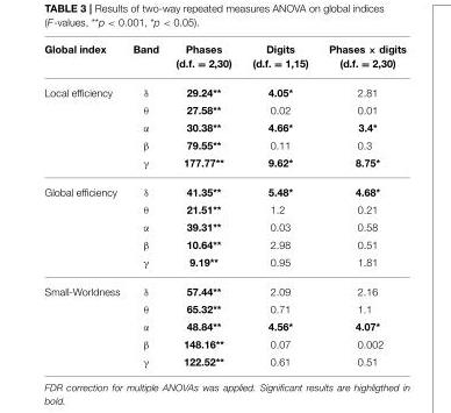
<table><thead><tr><td>Global index</td><td>Band</td><td>Phases (d.f. = 2,30)</td><td>Digits (d.f. = 1,15)</td><td>Phases × digits (d.f. = 2,30)</td></tr></thead><tbody><tr><td rowspan="5">Local efficiency</td><td>δ</td><td>29.24**</td><td>4.05*</td><td>2.81</td></tr><tr><td>θ</td><td>27.58**</td><td>0.02</td><td>0.01</td></tr><tr><td>α</td><td>30.38**</td><td>4.66*</td><td>3.4*</td></tr><tr><td>β</td><td>79.55**</td><td>0.11</td><td>0.3</td></tr><tr><td>γ</td><td>177.77**</td><td>9.62*</td><td>8.75*</td></tr><tr><td rowspan="5">Global efficiency</td><td>δ</td><td>41.35**</td><td>5.48*</td><td>4.68*</td></tr><tr><td>θ</td><td>21.51**</td><td>1.2</td><td>0.21</td></tr><tr><td>α</td><td>39.31**</td><td>0.03</td><td>0.58</td></tr><tr><td>β</td><td>10.64**</td><td>2.98</td><td>0.51</td></tr><tr><td>γ</td><td>9.19**</td><td>0.95</td><td>1.81</td></tr><tr><td rowspan="5">Small-Worldness</td><td>δ</td><td>57.44**</td><td>2.09</td><td>2.16</td></tr><tr><td>θ</td><td>65.32**</td><td>0.71</td><td>1.1</td></tr><tr><td>α</td><td>48.84**</td><td>4.56*</td><td>4.07*</td></tr><tr><td>β</td><td>148.16**</td><td>0.07</td><td>0.002</td></tr><tr><td>γ</td><td>122.52**</td><td>0.61</td><td>0.51</td></tr></tbody></table>